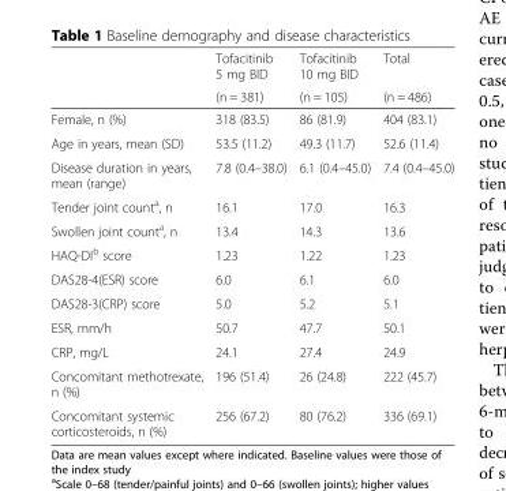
<table><thead><tr><td rowspan="2"></td><td rowspan="2">Tofacitinib 5 mg BID (n = 381)</td><td rowspan="2">Tofacitinib 10 mg BID (n = 105)</td><td rowspan="2">Total (n = 486)</td></tr><tr></tr></thead><tbody><tr><td>Female, n (%)</td><td>318 (83.5)</td><td>86 (81.9)</td><td>404 (83.1)</td></tr><tr><td>Age in years, mean (SD)</td><td>53.5 (11.2)</td><td>49.3 (11.7)</td><td>52.6 (11.4)</td></tr><tr><td>Disease duration in years, mean (range)</td><td>7.8 (0.4–38.0)</td><td>6.1 (0.4–45.0)</td><td>7.4 (0.4–45.0)</td></tr><tr><td>Tender joint count<sup>a</sup>, n</td><td>16.1</td><td>17.0</td><td>16.3</td></tr><tr><td>Swollen joint count<sup>a</sup>, n</td><td>13.4</td><td>14.3</td><td>13.6</td></tr><tr><td>HAQ-DI<sup>b</sup> score</td><td>1.23</td><td>1.22</td><td>1.23</td></tr><tr><td>DAS28-4(ESR) score</td><td>6.0</td><td>6.1</td><td>6.0</td></tr><tr><td>DAS28-3(CRP) score</td><td>5.0</td><td>5.2</td><td>5.1</td></tr><tr><td>ESR, mm/h</td><td>50.7</td><td>47.7</td><td>50.1</td></tr><tr><td>CRP, mg/L</td><td>24.1</td><td>27.4</td><td>24.9</td></tr><tr><td>Concomitant methotrexate, n (%)</td><td>196 (51.4)</td><td>26 (24.8)</td><td>222 (45.7)</td></tr><tr><td>Concomitant systemic corticosteroids, n (%)</td><td>256 (67.2)</td><td>80 (76.2)</td><td>336 (69.1)</td></tr></tbody></table>